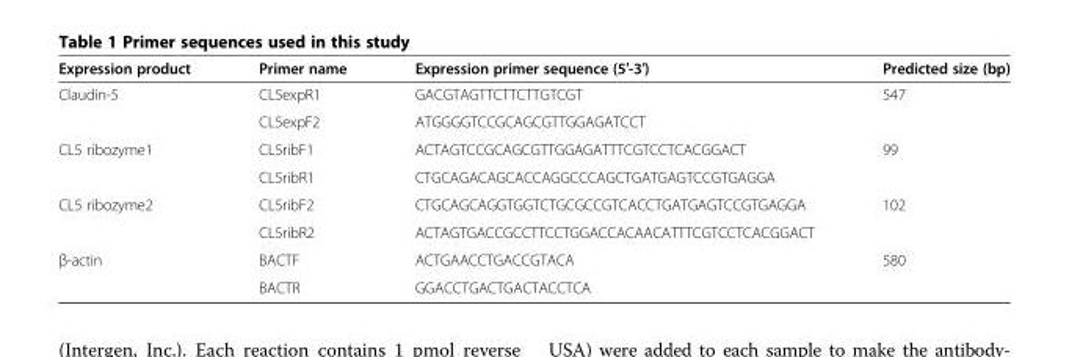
<table><thead><tr><td>Expression product</td><td>Primer name</td><td>Expression primer sequence (5′-3′)</td><td>Predicted size (bp)</td></tr></thead><tbody><tr><td rowspan="2">Claudin-5</td><td>CL5expR1</td><td>GACGTAGTTCTTCTTGTCGT</td><td rowspan="2">547</td></tr><tr><td>CL5expF2</td><td>ATGGGGTCCGCAGCGTTGGAGATCCT</td></tr><tr><td rowspan="2">CL5 ribozyme1</td><td>CL5ribF1</td><td>ACTAGTCCGCAGCGTTGGAGATTTCGTCCTCACGGACT</td><td rowspan="2">99</td></tr><tr><td>CL5ribR1</td><td>CTGCAGACAGCACCAGGCCCAGCTGATGAGTCCGTGAGGA</td></tr><tr><td rowspan="2">CL5 ribozyme2</td><td>CL5ribF2</td><td>CTGCAGCAGGTGGTCTGCGCCGTCACCTGATGAGTCCGTGAGGA</td><td rowspan="2">102</td></tr><tr><td>CL5ribR2</td><td>ACTAGTGACCGCCTTCCTGGACCACAACATTTCGTCCTCACGGACT</td></tr><tr><td rowspan="2">β-actin</td><td>BACTF</td><td>ACTGAACCTGACCGTACA</td><td>580</td></tr><tr><td>BACTR</td><td>GGACCTGACTGACTACCTCA</td><td></td></tr></tbody></table>